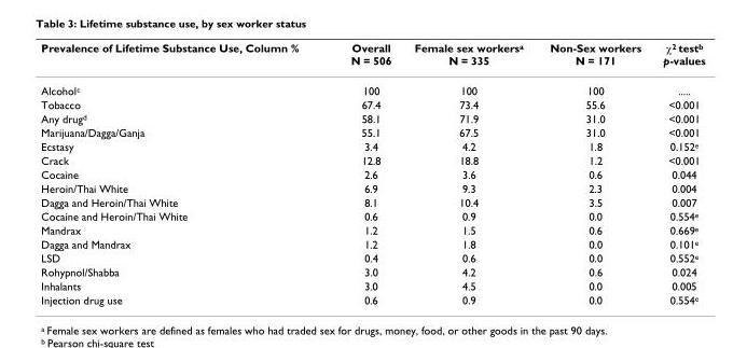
<table><thead><tr><td>Prevalence of Lifetime Substance Use, Column %</td><td>Overall N = 506</td><td>Female sex workers<sup>a</sup> N = 335</td><td>Non-Sex workers N = 171</td><td>χ<sup>2</sup> test<sup>b</sup> p-values</td></tr></thead><tbody><tr><td>Alcohol<sup>c</sup></td><td>100</td><td>100</td><td>100</td><td>.....</td></tr><tr><td>Tobacco</td><td>67.4</td><td>73.4</td><td>55.6</td><td>&lt;0.001</td></tr><tr><td>Any drug<sup>d</sup></td><td>58.1</td><td>71.9</td><td>31.0</td><td>&lt;0.001</td></tr><tr><td>Marijuana/Dagga/Ganja</td><td>55.1</td><td>67.5</td><td>31.0</td><td>&lt;0.001</td></tr><tr><td>Ecstasy</td><td>3.4</td><td>4.2</td><td>1.8</td><td>0.152<sup>e</sup></td></tr><tr><td>Crack</td><td>12.8</td><td>18.8</td><td>1.2</td><td>&lt;0.001</td></tr><tr><td>Cocaine</td><td>2.6</td><td>3.6</td><td>0.6</td><td>0.044</td></tr><tr><td>Heroin/Thai White</td><td>6.9</td><td>9.3</td><td>2.3</td><td>0.004</td></tr><tr><td>Dagga and Heroin/Thai White</td><td>8.1</td><td>10.4</td><td>3.5</td><td>0.007</td></tr><tr><td>Cocaine and Heroin/Thai White</td><td>0.6</td><td>0.9</td><td>0.0</td><td>0.554<sup>e</sup></td></tr><tr><td>Mandrax</td><td>1.2</td><td>1.5</td><td>0.6</td><td>0.669<sup>e</sup></td></tr><tr><td>Dagga and Mandrax</td><td>1.2</td><td>1.8</td><td>0.0</td><td>0.101<sup>e</sup></td></tr><tr><td>LSD</td><td>0.4</td><td>0.6</td><td>0.0</td><td>0.552<sup>e</sup></td></tr><tr><td>Rohypnol/Shabba</td><td>3.0</td><td>4.2</td><td>0.6</td><td>0.024</td></tr><tr><td>Inhalants</td><td>3.0</td><td>4.5</td><td>0.0</td><td>0.005</td></tr><tr><td>Injection drug use</td><td>0.6</td><td>0.9</td><td>0.0</td><td>0.554<sup>e</sup></td></tr></tbody></table>